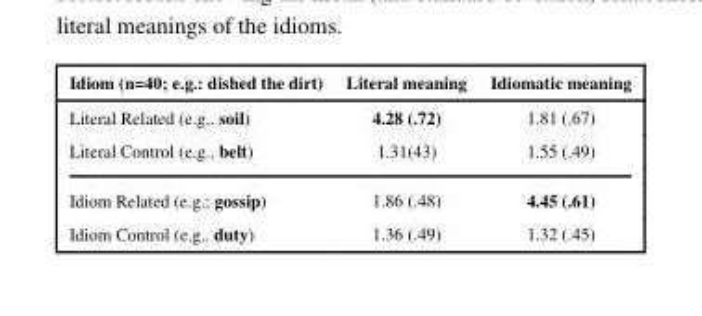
<table><thead><tr><td>Idiom (n=40; e.g.: dished the dirt)</td><td>Literal meaning</td><td>Idiomatic meaning</td></tr></thead><tbody><tr><td>Literal Related (e.g,. soil)</td><td>4.28 (.72)</td><td>1.81 (.67)</td></tr><tr><td>Literal Control (e.g.. belt)</td><td>1.31(43)</td><td>1.55 (.49)</td></tr><tr><td>Idiom Related (e.g.; gossip)</td><td>1.86 (.48)</td><td>4.45 (.61)</td></tr><tr><td>Idiom Control (e.g.. duty)</td><td>1.36 (.49)</td><td>1.32 (.45)</td></tr></tbody></table>